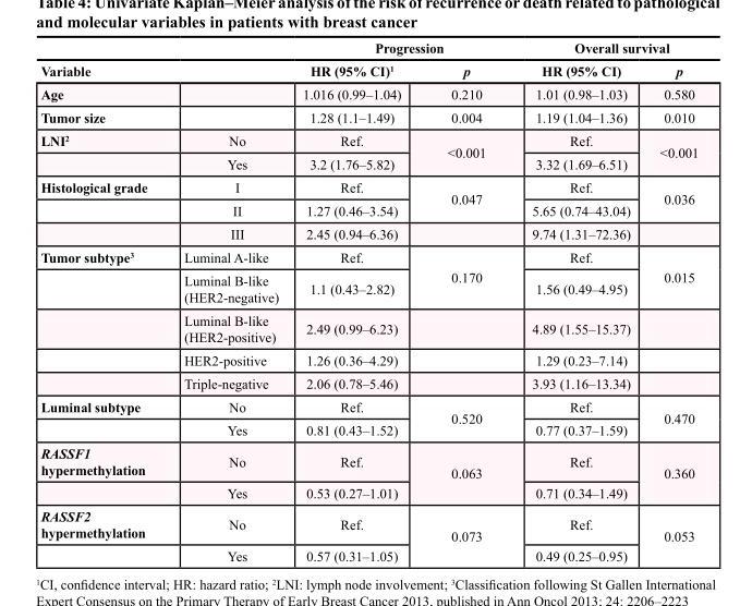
<table><thead><tr><td></td><td></td><td colspan="2">Progression</td><td colspan="2">Overall survival</td></tr><tr><td colspan="2">Variable</td><td>HR (95% CI)<sup>1</sup></td><td>p</td><td>HR (95% CI)</td><td>p</td></tr></thead><tbody><tr><td>Age</td><td></td><td>1.016 (0.99–1.04)</td><td>0.210</td><td>1.01 (0.98–1.03)</td><td>0.580</td></tr><tr><td>Tumor size</td><td></td><td>1.28 (1.1–1.49)</td><td>0.004</td><td>1.19 (1.04–1.36)</td><td>0.010</td></tr><tr><td rowspan="2">LNI<sup>2</sup></td><td>No</td><td>Ref.</td><td rowspan="2">&lt;0.001</td><td>Ref.</td><td rowspan="2">&lt;0.001</td></tr><tr><td>Yes</td><td>3.2 (1.76–5.82)</td><td>3.32 (1.69–6.51)</td></tr><tr><td rowspan="3">Histological grade</td><td>I</td><td>Ref.</td><td rowspan="2">0.047</td><td>Ref.</td><td rowspan="2">0.036</td></tr><tr><td>II</td><td>1.27 (0.46–3.54)</td><td>5.65 (0.74–43.04)</td></tr><tr><td>III</td><td>2.45 (0.94–6.36)</td><td></td><td>9.74 (1.31–72.36)</td><td></td></tr><tr><td rowspan="5">Tumor subtype<sup>3</sup></td><td>Luminal A-like</td><td>Ref.</td><td rowspan="2">0.170</td><td>Ref.</td><td rowspan="2">0.015</td></tr><tr><td>Luminal B-like (HER2-negative)</td><td>1.1 (0.43–2.82)</td><td>1.56 (0.49–4.95)</td></tr><tr><td>Luminal B-like (HER2-positive)</td><td>2.49 (0.99–6.23)</td><td></td><td>4.89 (1.55–15.37)</td><td></td></tr><tr><td>HER2-positive</td><td>1.26 (0.36–4.29)</td><td></td><td>1.29 (0.23–7.14)</td><td></td></tr><tr><td>Triple-negative</td><td>2.06 (0.78–5.46)</td><td></td><td>3.93 (1.16–13.34)</td><td></td></tr><tr><td rowspan="2">Luminal subtype</td><td>No</td><td>Ref.</td><td rowspan="2">0.520</td><td>Ref.</td><td rowspan="2">0.470</td></tr><tr><td>Yes</td><td>0.81 (0.43–1.52)</td><td>0.77 (0.37–1.59)</td></tr><tr><td rowspan="2">RASSF1 hypermethylation</td><td>No</td><td>Ref.</td><td rowspan="2">0.063</td><td>Ref.</td><td rowspan="2">0.360</td></tr><tr><td>Yes</td><td>0.53 (0.27–1.01)</td><td>0.71 (0.34–1.49)</td></tr><tr><td rowspan="2">RASSF2 hypermethylation</td><td>No</td><td>Ref.</td><td rowspan="2">0.073</td><td>Ref.</td><td rowspan="2">0.053</td></tr><tr><td>Yes</td><td>0.57 (0.31–1.05)</td><td>0.49 (0.25–0.95)</td></tr></tbody></table>